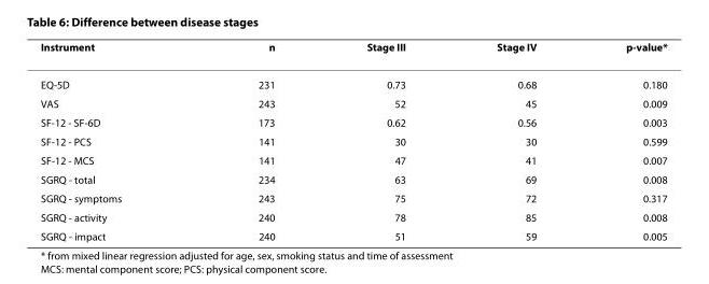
<table><thead><tr><td>Instrument</td><td>n</td><td>Stage III</td><td>Stage IV</td><td>p-value*</td></tr></thead><tbody><tr><td>EQ-5D</td><td>231</td><td>0.73</td><td>0.68</td><td>0.180</td></tr><tr><td>VAS</td><td>243</td><td>52</td><td>45</td><td>0.009</td></tr><tr><td>SF-12 - SF-6D</td><td>173</td><td>0.62</td><td>0.56</td><td>0.003</td></tr><tr><td>SF-12 - PCS</td><td>141</td><td>30</td><td>30</td><td>0.599</td></tr><tr><td>SF-12 - MCS</td><td>141</td><td>47</td><td>41</td><td>0.007</td></tr><tr><td>SGRQ - total</td><td>234</td><td>63</td><td>69</td><td>0.008</td></tr><tr><td>SGRQ - symptoms</td><td>243</td><td>75</td><td>72</td><td>0.317</td></tr><tr><td>SGRQ - activity</td><td>240</td><td>78</td><td>85</td><td>0.008</td></tr><tr><td>SGRQ - impact</td><td>240</td><td>51</td><td>59</td><td>0.005</td></tr></tbody></table>